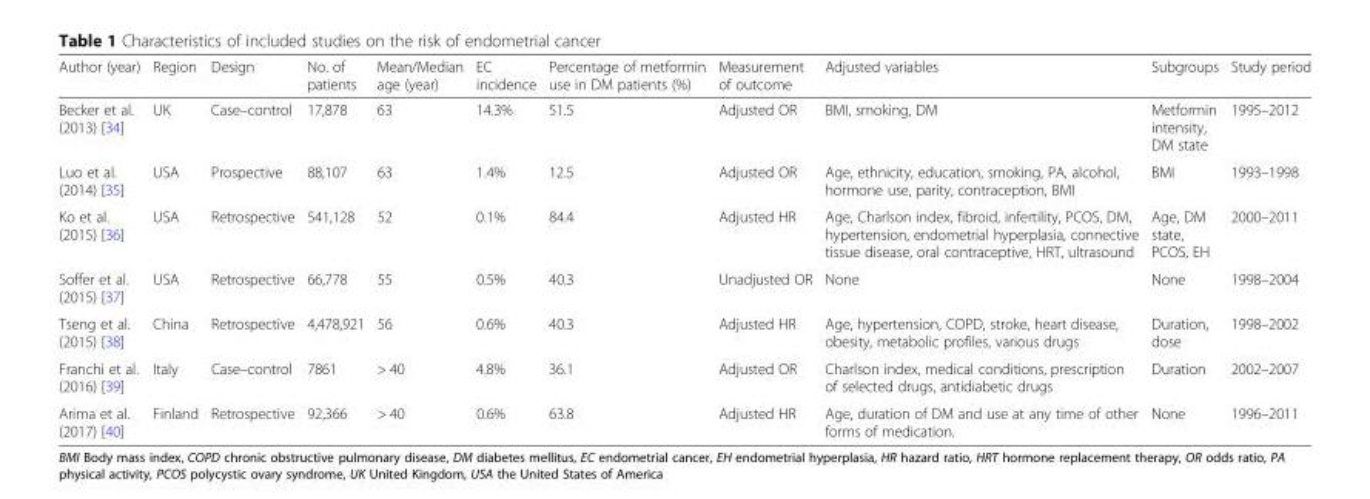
<table><thead><tr><td>Author (year)</td><td>Region</td><td>Design</td><td>No. of patients</td><td>Mean/Median age (year)</td><td>EC incidence</td><td>Percentage of metformin use in DM patients (%)</td><td>Measurement of outcome</td><td>Adjusted variables</td><td>Subgroups</td><td>Study period</td></tr></thead><tbody><tr><td>Becker et al. (2013) [34]</td><td>UK</td><td>Case–control</td><td>17,878</td><td>63</td><td>14.3%</td><td>51.5</td><td>Adjusted OR</td><td>BMI, smoking, DM</td><td>Metformin intensity, DM state</td><td>1995–2012</td></tr><tr><td>Luo et al. (2014) [35]</td><td>USA</td><td>Prospective</td><td>88,107</td><td>63</td><td>1.4%</td><td>12.5</td><td>Adjusted OR</td><td>Age, ethnicity, education, smoking, PA, alcohol, hormone use, parity, contraception, BMI</td><td>BMI</td><td>1993–1998</td></tr><tr><td>Ko et al. (2015) [36]</td><td>USA</td><td>Retrospective</td><td>541,128</td><td>52</td><td>0.1%</td><td>84.4</td><td>Adjusted HR</td><td>Age, Charlson index, fibroid, infertility, PCOS, DM, hypertension, endometrial hyperplasia, connective tissue disease, oral contraceptive, HRT, ultrasound</td><td>Age, DM state, PCOS, EH</td><td>2000–2011</td></tr><tr><td>Soffer et al. (2015) [37]</td><td>USA</td><td>Retrospective</td><td>66,778</td><td>55</td><td>0.5%</td><td>40.3</td><td>Unadjusted OR</td><td>None</td><td>None</td><td>1998–2004</td></tr><tr><td>Tseng et al. (2015) [38]</td><td>China</td><td>Retrospective</td><td>4,478,921</td><td>56</td><td>0.6%</td><td>40.3</td><td>Adjusted HR</td><td>Age, hypertension, COPD, stroke, heart disease, obesity, metabolic profiles, various drugs</td><td>Duration, dose</td><td>1998–2002</td></tr><tr><td>Franchi et al. (2016) [39]</td><td>Italy</td><td>Case–control</td><td>7861</td><td>&gt; 40</td><td>4.8%</td><td>36.1</td><td>Adjusted OR</td><td>Charlson index, medical conditions, prescription of selected drugs, antidiabetic drugs</td><td>Duration</td><td>2002–2007</td></tr><tr><td>Arima et al. (2017) [40]</td><td>Finland</td><td>Retrospective</td><td>92,366</td><td>&gt; 40</td><td>0.6%</td><td>63.8</td><td>Adjusted HR</td><td>Age, duration of DM and use at any time of other forms of medication.</td><td>None</td><td>1996–2011</td></tr></tbody></table>